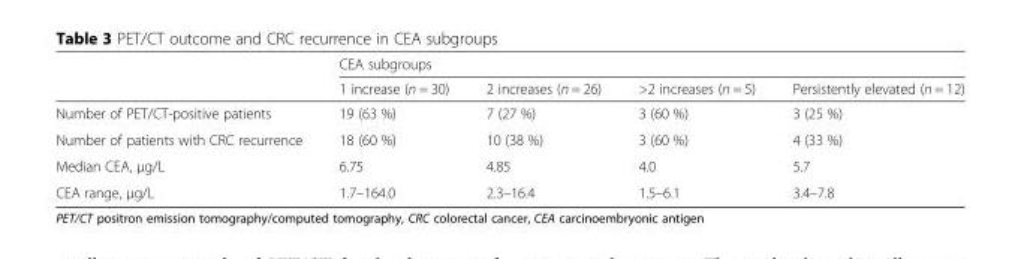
<table><thead><tr><td rowspan="2"></td><td colspan="4">CEA subgroups</td></tr><tr><td>1 increase (n = 30)</td><td>2 increases (n = 26)</td><td>&gt;2 increases (n = 5)</td><td>Persistently elevated (n = 12)</td></tr></thead><tbody><tr><td>Number of PET/CT-positive patients</td><td>19 (63 %)</td><td>7 (27 %)</td><td>3 (60 %)</td><td>3 (25 %)</td></tr><tr><td>Number of patients with CRC recurrence</td><td>18 (60 %)</td><td>10 (38 %)</td><td>3 (60 %)</td><td>4 (33 %)</td></tr><tr><td>Median CEA, μg/L</td><td>6.75</td><td>4.85</td><td>4.0</td><td>5.7</td></tr><tr><td>CEA range, μg/L</td><td>1.7–164.0</td><td>2.3–16.4</td><td>1.5–6.1</td><td>3.4–7.8</td></tr></tbody></table>